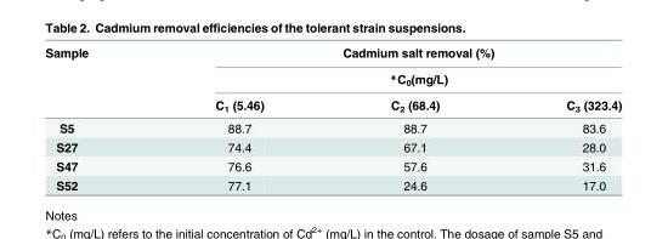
<table><thead><tr><td rowspan="3">Sample</td><td rowspan="2" colspan="3">Cadmium salt removal (%) *C<sub>0</sub>(mg/L)</td></tr><tr></tr><tr><td>C<sub>1</sub> (5.46)</td><td>C<sub>2</sub> (68.4)</td><td>C<sub>3</sub> (323.4)</td></tr></thead><tbody><tr><td>S5</td><td>88.7</td><td>88.7</td><td>83.6</td></tr><tr><td>S27</td><td>74.4</td><td>67.1</td><td>28.0</td></tr><tr><td>S47</td><td>76.6</td><td>57.6</td><td>31.6</td></tr><tr><td>S52</td><td>77.1</td><td>24.6</td><td>17.0</td></tr></tbody></table>